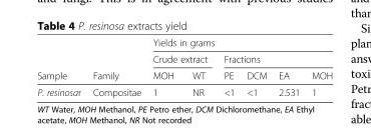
<table><thead><tr><td rowspan="3">Sample</td><td rowspan="3">Family</td><td colspan="6">Yields in grams</td></tr><tr><td colspan="2">Crude extract</td><td colspan="4">Fractions</td></tr><tr><td>MOH</td><td>WT</td><td>PE</td><td>DCM</td><td>EA</td><td>MOH</td></tr></thead><tbody><tr><td>P. resinosar</td><td>Compositae</td><td>1</td><td>NR</td><td>&lt;1</td><td>&lt;1</td><td>2.531</td><td>1</td></tr></tbody></table>